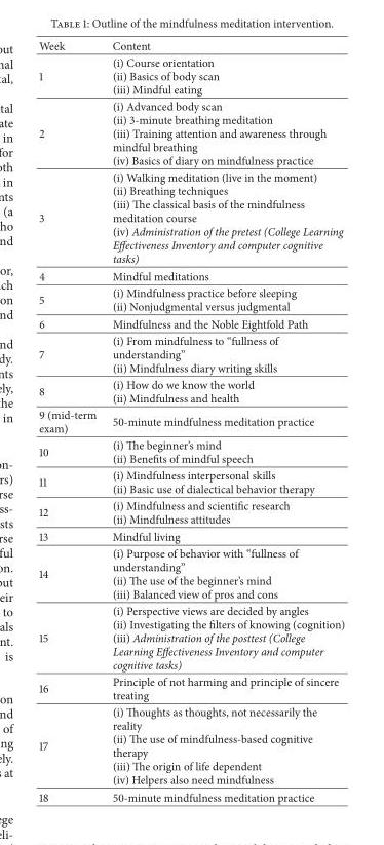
<table><thead><tr><td>Week</td><td>Content</td></tr></thead><tbody><tr><td>1</td><td>(i) Course orientation (ii) Basics of body scan (iii) Mindful eating</td></tr><tr><td>2</td><td>(i) Advanced body scan (ii) 3-minute breathing meditation (iii) Training attention and awareness through mindful breathing (iv) Basics of diary on mindfulness practice</td></tr><tr><td>3</td><td>(i) Walking meditation (live in the moment) (ii) Breathing techniques (iii) The classical basis of the mindfulness meditation course (iv) Administration of the pretest (College Learning Effectiveness Inventory and computer cognitive tasks)</td></tr><tr><td>4</td><td>Mindful meditations</td></tr><tr><td>5</td><td>(i) Mindfulness practice before sleeping (ii) Nonjudgmental versus judgmental</td></tr><tr><td>6</td><td>Mindfulness and the Noble Eightfold Path</td></tr><tr><td>7</td><td>(i) From mindfulness to “fullness of understanding” (ii) Mindfulness diary writing skills</td></tr><tr><td>8</td><td>(i) How do we know the world (ii) Mindfulness and health</td></tr><tr><td>9 (mid-term exam)</td><td>50-minute mindfulness meditation practice</td></tr><tr><td>10</td><td>(i) The beginner’s mind (ii) Benefits of mindful speech</td></tr><tr><td>11</td><td>(i) Mindfulness interpersonal skills (ii) Basic use of dialectical behavior therapy</td></tr><tr><td>12</td><td>(i) Mindfulness and scientific research (ii) Mindfulness attitudes</td></tr><tr><td>13</td><td>Mindful living</td></tr><tr><td>14</td><td>(i) Purpose of behavior with “fullness of understanding” (ii) The use of the beginner’s mind (iii) Balanced view of pros and cons</td></tr><tr><td>15</td><td>(i) Perspective views are decided by angles (ii) Investigating the filters of knowing (cognition) (iii) Administration of the posttest (College Learning Effectiveness Inventory and computer cognitive tasks)</td></tr><tr><td>16</td><td>Principle of not harming and principle of sincere treating</td></tr><tr><td>17</td><td>(i) Thoughts as thoughts, not necessarily the reality (ii) The use of mindfulness-based cognitive therapy (iii) The origin of life dependent (iv) Helpers also need mindfulness</td></tr><tr><td>18</td><td>50-minute mindfulness meditation practice</td></tr></tbody></table>